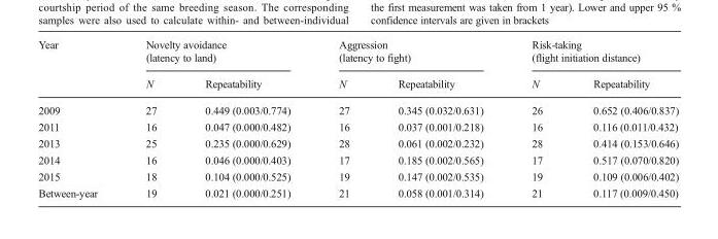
<table><thead><tr><td rowspan="2">Year</td><td colspan="2">Novelty avoidance (latency to land)</td><td colspan="2">Aggression (latency to fight)</td><td colspan="2">Risk-taking (flight initiation distance)</td></tr><tr><td>N</td><td>Repeatability</td><td>N</td><td>Repeatability</td><td>N</td><td>Repeatability</td></tr></thead><tbody><tr><td>2009</td><td>27</td><td>0.449 (0.003/0.774)</td><td>27</td><td>0.345 (0.032/0.631)</td><td>26</td><td>0.652 (0.406/0.837)</td></tr><tr><td>2011</td><td>16</td><td>0.047 (0.000/0.482)</td><td>16</td><td>0.037 (0.001/0.218)</td><td>16</td><td>0.116 (0.011/0.432)</td></tr><tr><td>2013</td><td>25</td><td>0.235 (0.000/0.629)</td><td>28</td><td>0.061 (0.002/0.232)</td><td>28</td><td>0.414 (0.153/0.646)</td></tr><tr><td>2014</td><td>16</td><td>0.046 (0.000/0.403)</td><td>17</td><td>0.185 (0.002/0.565)</td><td>17</td><td>0.517 (0.070/0.820)</td></tr><tr><td>2015</td><td>18</td><td>0.104 (0.000/0.525)</td><td>19</td><td>0.147 (0.002/0.535)</td><td>19</td><td>0.109 (0.006/0.402)</td></tr><tr><td>Between-year</td><td>19</td><td>0.021 (0.000/0.251)</td><td>21</td><td>0.058 (0.001/0.314)</td><td>21</td><td>0.117 (0.009/0.450)</td></tr></tbody></table>